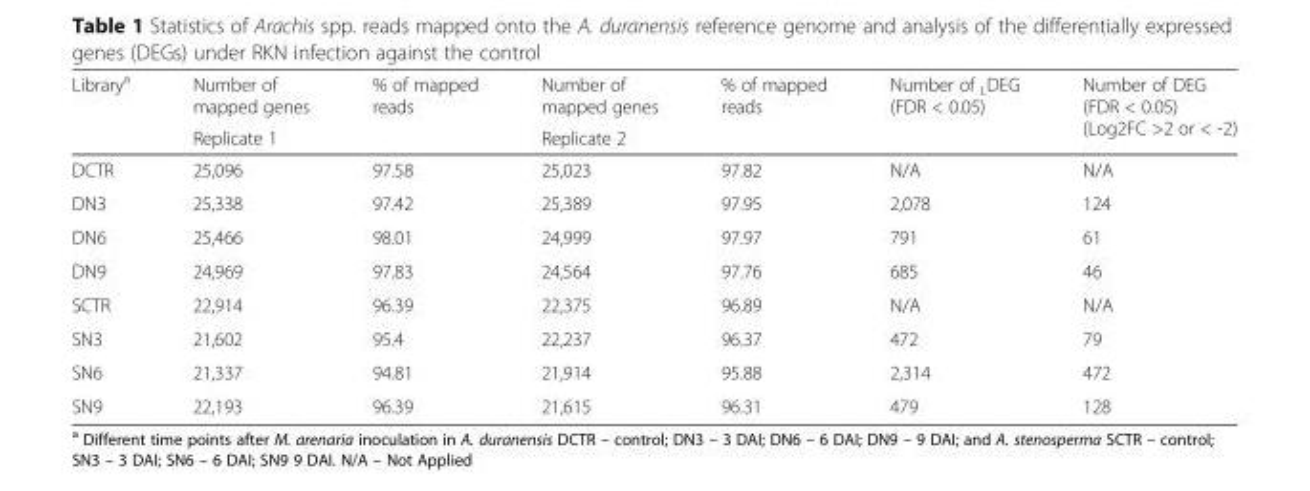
<table><thead><tr><td rowspan="2">Library<sup>a</sup></td><td>Number of mapped genes</td><td>% of mapped reads</td><td>Number of mapped genes</td><td>% of mapped reads</td><td rowspan="2">Number of <sub>L</sub>DEG (FDR &lt; 0.05)</td><td rowspan="2">Number of DEG (FDR &lt; 0.05) (Log2FC &gt;2 or &lt; -2)</td></tr><tr><td colspan="2">Replicate 1</td><td colspan="2">Replicate 2</td></tr></thead><tbody><tr><td>DCTR</td><td>25,096</td><td>97.58</td><td>25,023</td><td>97.82</td><td>N/A</td><td>N/A</td></tr><tr><td>DN3</td><td>25,338</td><td>97.42</td><td>25,389</td><td>97.95</td><td>2,078</td><td>124</td></tr><tr><td>DN6</td><td>25,466</td><td>98.01</td><td>24,999</td><td>97.97</td><td>791</td><td>61</td></tr><tr><td>DN9</td><td>24,969</td><td>97.83</td><td>24,564</td><td>97.76</td><td>685</td><td>46</td></tr><tr><td>SCTR</td><td>22,914</td><td>96.39</td><td>22,375</td><td>96.89</td><td>N/A</td><td>N/A</td></tr><tr><td>SN3</td><td>21,602</td><td>95.4</td><td>22,237</td><td>96.37</td><td>472</td><td>79</td></tr><tr><td>SN6</td><td>21,337</td><td>94.81</td><td>21,914</td><td>95.88</td><td>2,314</td><td>472</td></tr><tr><td>SN9</td><td>22,193</td><td>96.39</td><td>21,615</td><td>96.31</td><td>479</td><td>128</td></tr></tbody></table>